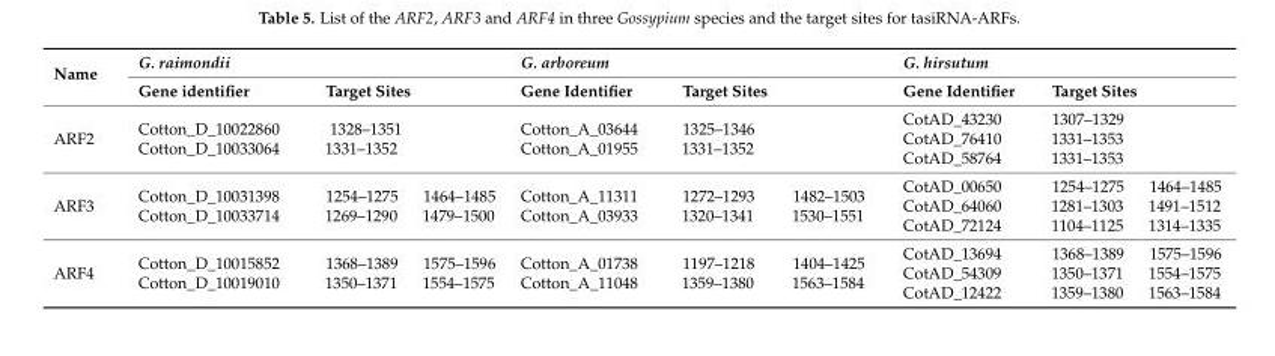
<table><thead><tr><td rowspan="3">Name ARF2</td><td colspan="3">G. raimondii</td><td colspan="3">G. arboreum</td><td colspan="3">G. hirsutum</td></tr><tr><td rowspan="2">Gene identifier Cotton_D_10022860 Cotton_D_10033064</td><td colspan="2">Target Sites</td><td rowspan="2">Gene Identifier Cotton_A_03644 Cotton_A_01955</td><td colspan="2">Target Sites</td><td rowspan="2">Gene Identifier CotAD_43230 CotAD_76410 CotAD_58764</td><td colspan="2">Target Sites</td></tr><tr><td>1328–1351 1331–1352</td><td></td><td>1325–1346 1331–1352</td><td></td><td>1307–1329 1331–1353 1331–1353</td><td></td></tr></thead><tbody><tr><td>ARF3</td><td>Cotton_D_10031398 Cotton_D_10033714</td><td>1254–1275 1269–1290</td><td>1464–1485 1479–1500</td><td>Cotton_A_11311 Cotton_A_03933</td><td>1272–1293 1320–1341</td><td>1482–1503 1530–1551</td><td>CotAD_00650 CotAD_64060 CotAD_72124</td><td>1254–1275 1281–1303 1104–1125</td><td>1464–1485 1491–1512 1314–1335</td></tr><tr><td>ARF4</td><td>Cotton_D_10015852 Cotton_D_10019010</td><td>1368–1389 1350–1371</td><td>1575–1596 1554–1575</td><td>Cotton_A_01738 Cotton_A_11048</td><td>1197–1218 1359–1380</td><td>1404–1425 1563–1584</td><td>CotAD_13694 CotAD_54309 CotAD_12422</td><td>1368–1389 1350–1371 1359–1380</td><td>1575–1596 1554–1575 1563–1584</td></tr></tbody></table>